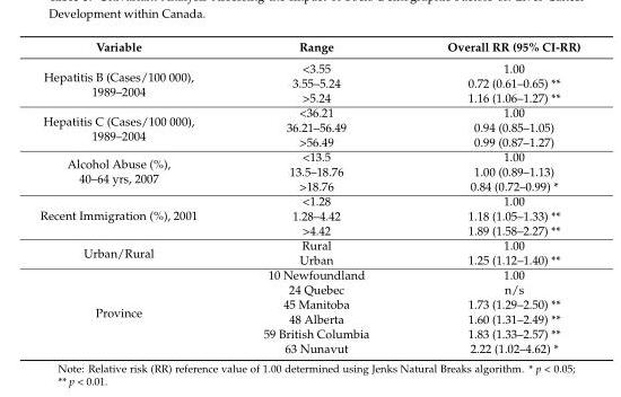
<table><thead><tr><td>Variable</td><td>Range</td><td>Overall RR (95% CI-RR)</td></tr></thead><tbody><tr><td rowspan="3">Hepatitis B (Cases/100 000), 1989–2004</td><td>&lt;3.55</td><td>1.00</td></tr><tr><td>3.55–5.24</td><td>0.72 (0.61–0.65) **</td></tr><tr><td>&gt;5.24</td><td>1.16 (1.06–1.27) **</td></tr><tr><td rowspan="3">Hepatitis C (Cases/100 000), 1989–2004</td><td>&lt;36.21</td><td>1.00</td></tr><tr><td>36.21–56.49</td><td>0.94 (0.85–1.05)</td></tr><tr><td>&gt;56.49</td><td>0.99 (0.87–1.27)</td></tr><tr><td rowspan="3">Alcohol Abuse (%), 40–64 yrs, 2007</td><td>&lt;13.5</td><td>1.00</td></tr><tr><td>13.5–18.76</td><td>1.00 (0.89–1.13)</td></tr><tr><td>&gt;18.76</td><td>0.84 (0.72–0.99) *</td></tr><tr><td rowspan="3">Recent Immigration (%), 2001</td><td>&lt;1.28</td><td>1.00</td></tr><tr><td>1.28–4.42</td><td>1.18 (1.05–1.33) **</td></tr><tr><td>&gt;4.42</td><td>1.89 (1.58–2.27) **</td></tr><tr><td rowspan="2">Urban/Rural</td><td>Rural</td><td>1.00</td></tr><tr><td>Urban</td><td>1.25 (1.12–1.40) **</td></tr><tr><td rowspan="6">Province</td><td>10 Newfoundland</td><td>1.00</td></tr><tr><td>24 Quebec</td><td>n/s</td></tr><tr><td>45 Manitoba</td><td>1.73 (1.29–2.50) **</td></tr><tr><td>48 Alberta</td><td>1.60 (1.31–2.49) **</td></tr><tr><td>59 British Columbia</td><td>1.83 (1.33–2.57) **</td></tr><tr><td>63 Nunavut</td><td>2.22 (1.02–4.62) *</td></tr></tbody></table>